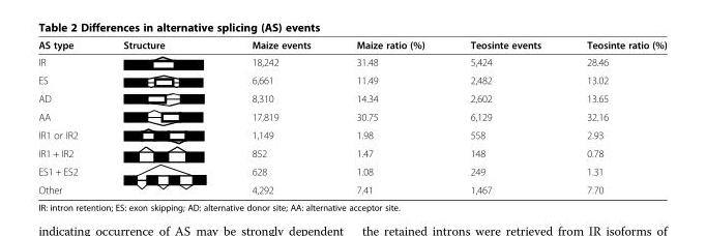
<table><thead><tr><td>AS type</td><td>Structure</td><td>Maize events</td><td>Maize ratio (%)</td><td>Teosinte events</td><td>Teosinte ratio (%)</td></tr></thead><tbody><tr><td>IR</td><td></td><td>18,242</td><td>31.48</td><td>5,424</td><td>28.46</td></tr><tr><td>ES</td><td></td><td>6,661</td><td>11.49</td><td>2,482</td><td>13.02</td></tr><tr><td>AD</td><td></td><td>8,310</td><td>14.34</td><td>2,602</td><td>13.65</td></tr><tr><td>AA</td><td></td><td>17,819</td><td>30.75</td><td>6,129</td><td>32.16</td></tr><tr><td>IR1 or IR2</td><td></td><td>1,149</td><td>1.98</td><td>558</td><td>2.93</td></tr><tr><td>IR1 + IR2</td><td></td><td>852</td><td>1.47</td><td>148</td><td>0.78</td></tr><tr><td>ES1 + ES2</td><td></td><td>628</td><td>1.08</td><td>249</td><td>1.31</td></tr><tr><td>Other</td><td></td><td>4,292</td><td>7.41</td><td>1,467</td><td>7.70</td></tr></tbody></table>